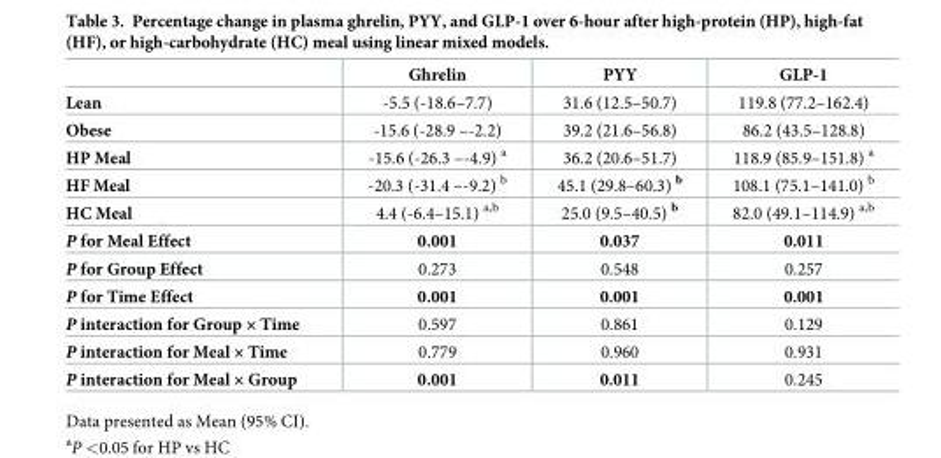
<table><thead><tr><td></td><td>Ghrelin</td><td>PYY</td><td>GLP-1</td></tr></thead><tbody><tr><td>Lean</td><td>-5.5 (-18.6–7.7)</td><td>31.6 (12.5–50.7)</td><td>119.8 (77.2–162.4)</td></tr><tr><td>Obese</td><td>-15.6 (-28.9 –-2.2)</td><td>39.2 (21.6–56.8)</td><td>86.2 (43.5–128.8)</td></tr><tr><td>HP Meal</td><td>-15.6 (-26.3 –-4.9) <sup>a</sup></td><td>36.2 (20.6–51.7)</td><td>118.9 (85.9–151.8) <sup>a</sup></td></tr><tr><td>HF Meal</td><td>-20.3 (-31.4 –-9.2) <sup>b</sup></td><td>45.1 (29.8–60.3) <sup>b</sup></td><td>108.1 (75.1–141.0) <sup>b</sup></td></tr><tr><td>HC Meal</td><td>4.4 (-6.4–15.1) <sup>a,b</sup></td><td>25.0 (9.5–40.5) <sup>b</sup></td><td>82.0 (49.1–114.9) <sup>a,b</sup></td></tr><tr><td>P for Meal Effect</td><td>0.001</td><td>0.037</td><td>0.011</td></tr><tr><td>P for Group Effect</td><td>0.273</td><td>0.548</td><td>0.257</td></tr><tr><td>P for Time Effect</td><td>0.001</td><td>0.001</td><td>0.001</td></tr><tr><td>P interaction for Group × Time</td><td>0.597</td><td>0.861</td><td>0.129</td></tr><tr><td>P interaction for Meal × Time</td><td>0.779</td><td>0.960</td><td>0.931</td></tr><tr><td>P interaction for Meal × Group</td><td>0.001</td><td>0.011</td><td>0.245</td></tr></tbody></table>